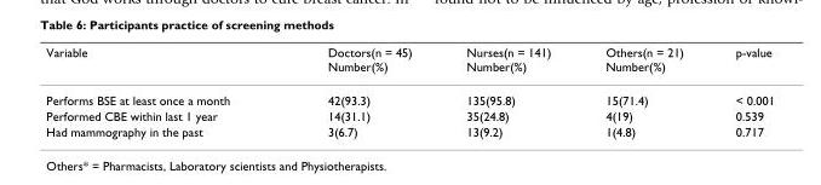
<table><thead><tr><td>Variable</td><td>Doctors(n = 45) Number(%)</td><td>Nurses(n = 141) Number(%)</td><td>Others(n = 21) Number(%)</td><td>p-value</td></tr></thead><tbody><tr><td>Performs BSE at least once a month</td><td>42(93.3)</td><td>135(95.8)</td><td>15(71.4)</td><td>&lt; 0.001</td></tr><tr><td>Performed CBE within last 1 year</td><td>14(31.1)</td><td>35(24.8)</td><td>4(19)</td><td>0.539</td></tr><tr><td>Had mammography in the past</td><td>3(6.7)</td><td>13(9.2)</td><td>1(4.8)</td><td>0.717</td></tr></tbody></table>